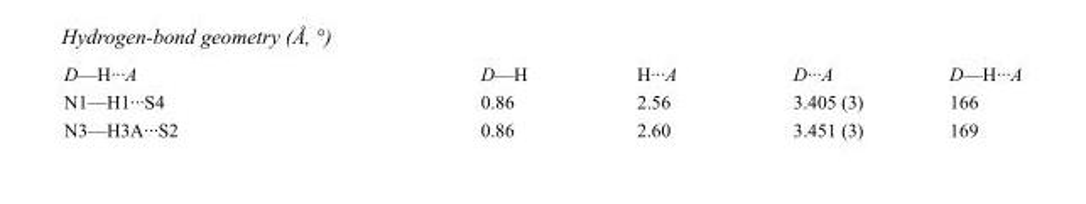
<table><tbody><tr><td>D—H···A</td><td>D—H</td><td>H···A</td><td>D···A</td><td>D—H···A</td></tr><tr><td>N1—H1···S4</td><td>0.86</td><td>2.56</td><td>3.405 (3)</td><td>166</td></tr><tr><td>N3—H3A···S2</td><td>0.86</td><td>2.60</td><td>3.451 (3)</td><td>169</td></tr></tbody></table>